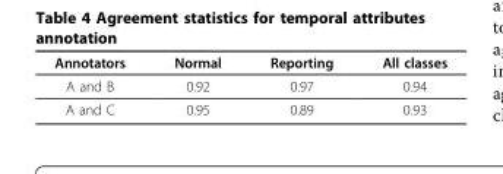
<table><thead><tr><td>Annotators</td><td>Normal</td><td>Reporting</td><td>All classes</td></tr></thead><tbody><tr><td>A and B</td><td>0.92</td><td>0.97</td><td>0.94</td></tr><tr><td>A and C</td><td>0.95</td><td>0.89</td><td>0.93</td></tr></tbody></table>